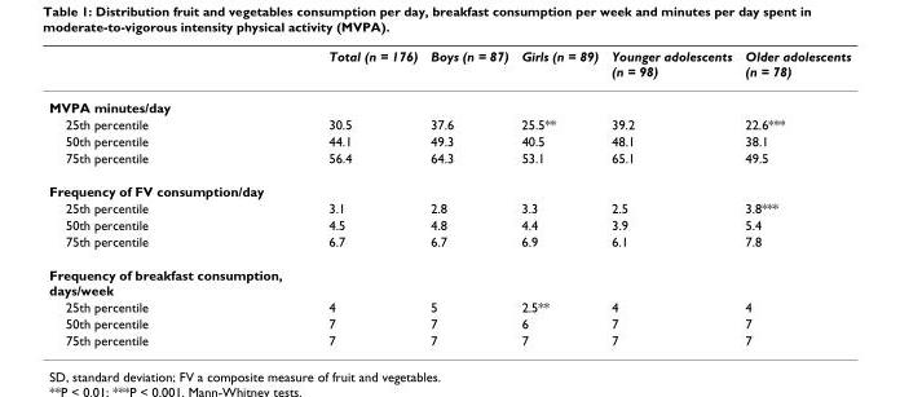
<table><thead><tr><td></td><td>Total (n = 176)</td><td>Boys (n = 87)</td><td>Girls (n = 89)</td><td>Younger adolescents (n = 98)</td><td>Older adolescents (n = 78)</td></tr></thead><tbody><tr><td colspan="6">MVPA minutes/day</td></tr><tr><td>25th percentile</td><td>30.5</td><td>37.6</td><td>25.5**</td><td>39.2</td><td>22.6***</td></tr><tr><td>50th percentile</td><td>44.1</td><td>49.3</td><td>40.5</td><td>48.1</td><td>38.1</td></tr><tr><td>75th percentile</td><td>56.4</td><td>64.3</td><td>53.1</td><td>65.1</td><td>49.5</td></tr><tr><td colspan="6">Frequency of FV consumption/day</td></tr><tr><td>25th percentile</td><td>3.1</td><td>2.8</td><td>3.3</td><td>2.5</td><td>3.8***</td></tr><tr><td>50th percentile</td><td>4.5</td><td>4.8</td><td>4.4</td><td>3.9</td><td>5.4</td></tr><tr><td>75th percentile</td><td>6.7</td><td>6.7</td><td>6.9</td><td>6.1</td><td>7.8</td></tr><tr><td colspan="6">Frequency of breakfast consumption, days/week</td></tr><tr><td>25th percentile</td><td>4</td><td>5</td><td>2.5**</td><td>4</td><td>4</td></tr><tr><td>50th percentile</td><td>7</td><td>7</td><td>6</td><td>7</td><td>7</td></tr><tr><td>75th percentile</td><td>7</td><td>7</td><td>7</td><td>7</td><td>7</td></tr></tbody></table>